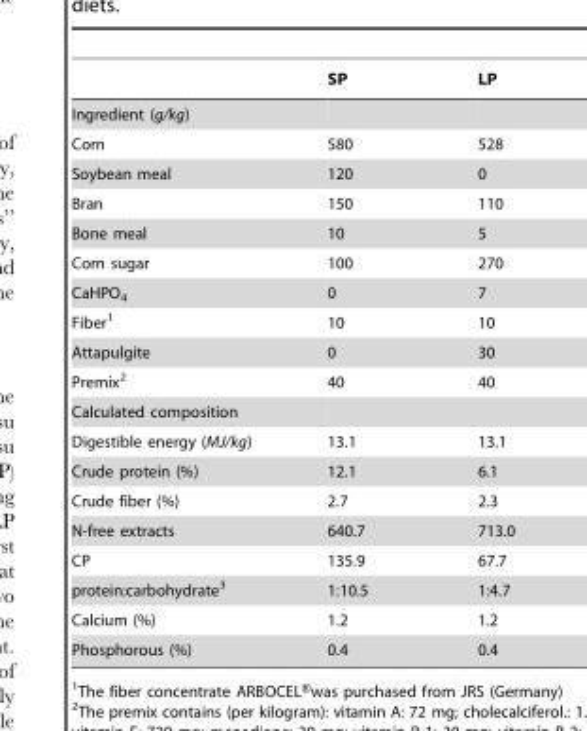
<table><thead><tr><td></td><td>SP</td><td>LP</td></tr></thead><tbody><tr><td colspan="3">Ingredient (g/kg)</td></tr><tr><td>Corn</td><td>580</td><td>528</td></tr><tr><td>Soybean meal</td><td>120</td><td>0</td></tr><tr><td>Bran</td><td>150</td><td>110</td></tr><tr><td>Bone meal</td><td>10</td><td>5</td></tr><tr><td>Corn sugar</td><td>100</td><td>270</td></tr><tr><td>CaHPO<sub>4</sub></td><td>0</td><td>7</td></tr><tr><td>Fiber<sup>1</sup></td><td>10</td><td>10</td></tr><tr><td>Attapulgite</td><td>0</td><td>30</td></tr><tr><td>Premix<sup>2</sup></td><td>40</td><td>40</td></tr><tr><td colspan="3">Calculated composition</td></tr><tr><td>Digestible energy (MJ/kg)</td><td>13.1</td><td>13.1</td></tr><tr><td>Crude protein (%)</td><td>12.1</td><td>6.1</td></tr><tr><td>Crude fiber (%)</td><td>2.7</td><td>2.3</td></tr><tr><td>N-free extracts</td><td>640.7</td><td>713.0</td></tr><tr><td>CP</td><td>135.9</td><td>67.7</td></tr><tr><td>protein:carbohydrate3</td><td>1:10.5</td><td>1:4.7</td></tr><tr><td>Calcium (%)</td><td>1.2</td><td>1.2</td></tr><tr><td>Phosphorous (%)</td><td>0.4</td><td>0.4</td></tr></tbody></table>